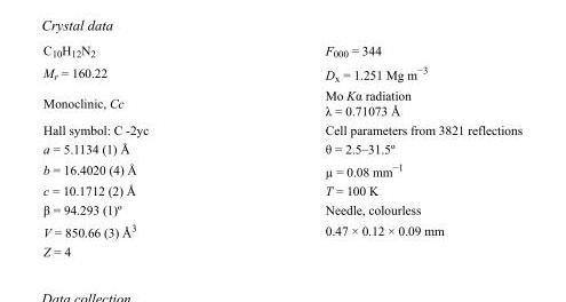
<table><tbody><tr><td>C<sub>10</sub>H<sub>12</sub>N<sub>2</sub></td><td>F000 = 344</td></tr><tr><td>M<sub>r</sub> = 160.22</td><td>D<sub>x</sub> = 1.251 Mg m<sup>−3</sup></td></tr><tr><td>Monoclinic, Cc</td><td>Mo Kα radiation λ = 0.71073 Å</td></tr><tr><td>Hall symbol: C -2yc</td><td>Cell parameters from 3821 reflections</td></tr><tr><td>a = 5.1134 (1) Å</td><td>θ = 2.5–31.5º</td></tr><tr><td>b = 16.4020 (4) Å</td><td>µ = 0.08 mm<sup>−1</sup></td></tr><tr><td>c = 10.1712 (2) Å</td><td>T = 100 K</td></tr><tr><td>β = 94.293 (1)º</td><td>Needle, colourless</td></tr><tr><td>V = 850.66 (3) Å<sup>3</sup></td><td>0.47 × 0.12 × 0.09 mm</td></tr><tr><td>Z = 4</td><td></td></tr></tbody></table>